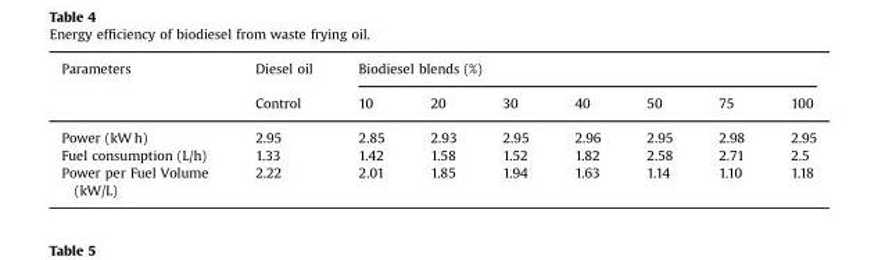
<table><thead><tr><td rowspan="2">Parameters</td><td rowspan="2">Diesel oil Control</td><td colspan="7">Biodiesel blends (%)</td></tr><tr><td>10</td><td>20</td><td>30</td><td>40</td><td>50</td><td>75</td><td>100</td></tr></thead><tbody><tr><td>Power (kW h)</td><td>2.95</td><td>2.85</td><td>2.93</td><td>2.95</td><td>2.96</td><td>2.95</td><td>2.98</td><td>2.95</td></tr><tr><td>Fuel consumption (L/h)</td><td>1.33</td><td>1.42</td><td>1.58</td><td>1.52</td><td>1.82</td><td>2.58</td><td>2.71</td><td>2.5</td></tr><tr><td>Power per Fuel Volume (kW/L)</td><td>2.22</td><td>2.01</td><td>1.85</td><td>1.94</td><td>1.63</td><td>1.14</td><td>1.10</td><td>1.18</td></tr></tbody></table>